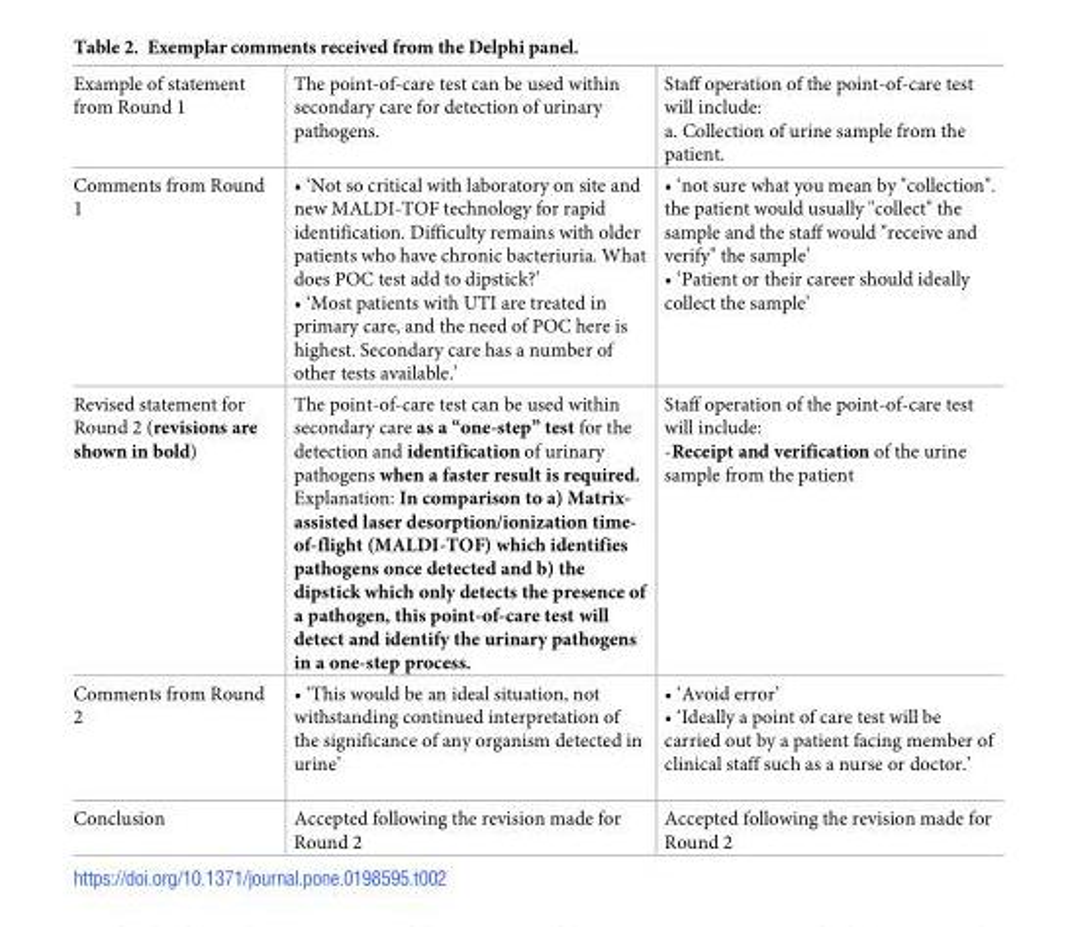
<table><tbody><tr><td>Example of statement from Round 1</td><td>The point-of-care test can be used within secondary care for detection of urinary pathogens.</td><td>Staff operation of the point-of-care test will include: a. Collection of urine sample from the patient.</td></tr><tr><td>Comments from Round 1</td><td>• ‘Not so critical with laboratory on site and new MALDI-TOF technology for rapid identification. Difficulty remains with older patients who have chronic bacteriuria. What does POC test add to dipstick?’ • ‘Most patients with UTI are treated in primary care, and the need of POC here is highest. Secondary care has a number of other tests available.’</td><td>• ‘not sure what you mean by &quot;collection&quot;. the patient would usually &quot;collect&quot; the sample and the staff would &quot;receive and verify&quot; the sample’ • ‘Patient or their career should ideally collect the sample’</td></tr><tr><td>Revised statement for Round 2 (revisions are shown in bold)</td><td>The point-of-care test can be used within secondary care as a “one-step” test for the detection and identification of urinary pathogens when a faster result is required. Explanation: In comparison to a) Matrix- assisted laser desorption/ionization time- of-flight (MALDI-TOF) which identifies pathogens once detected and b) the dipstick which only detects the presence of a pathogen, this point-of-care test will detect and identify the urinary pathogens in a one-step process.</td><td>Staff operation of the point-of-care test will include: -Receipt and verification of the urine sample from the patient</td></tr><tr><td>Comments from Round 2</td><td>• ‘This would be an ideal situation, not withstanding continued interpretation of the significance of any organism detected in urine’</td><td>• ‘Avoid error’ • ‘Ideally a point of care test will be carried out by a patient facing member of clinical staff such as a nurse or doctor.’</td></tr><tr><td>Conclusion</td><td>Accepted following the revision made for Round 2</td><td>Accepted following the revision made for Round 2</td></tr></tbody></table>